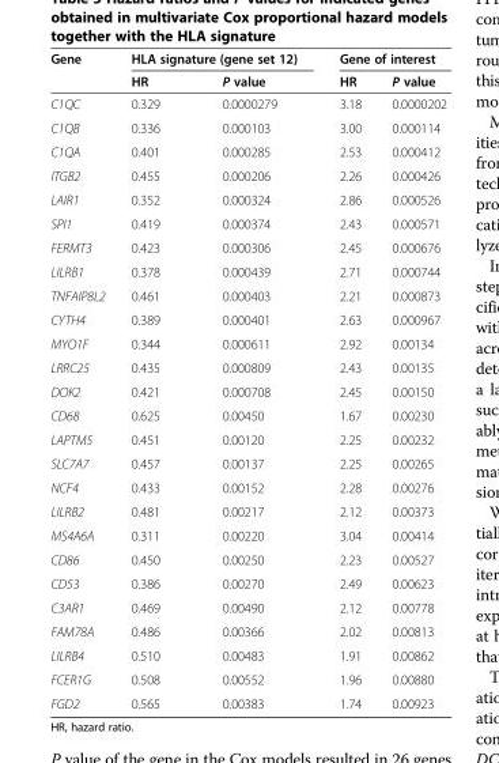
<table><thead><tr><td rowspan="2">Gene</td><td colspan="2">HLA signature (gene set 12)</td><td colspan="2">Gene of interest</td></tr><tr><td>HR</td><td>P value</td><td>HR</td><td>P value</td></tr></thead><tbody><tr><td>C1QC</td><td>0.329</td><td>0.0000279</td><td>3.18</td><td>0.0000202</td></tr><tr><td>C1QB</td><td>0.336</td><td>0.000103</td><td>3.00</td><td>0.000114</td></tr><tr><td>C1QA</td><td>0.401</td><td>0.000285</td><td>2.53</td><td>0.000412</td></tr><tr><td>ITGB2</td><td>0.455</td><td>0.000206</td><td>2.26</td><td>0.000426</td></tr><tr><td>LAIR1</td><td>0.352</td><td>0.000324</td><td>2.86</td><td>0.000526</td></tr><tr><td>SPI1</td><td>0.419</td><td>0.000374</td><td>2.43</td><td>0.000571</td></tr><tr><td>FERMT3</td><td>0.423</td><td>0.000306</td><td>2.45</td><td>0.000676</td></tr><tr><td>LILRB1</td><td>0.378</td><td>0.000439</td><td>2.71</td><td>0.000744</td></tr><tr><td>TNFAIP8L2</td><td>0.461</td><td>0.000403</td><td>2.21</td><td>0.000873</td></tr><tr><td>CYTH4</td><td>0.389</td><td>0.000401</td><td>2.63</td><td>0.000967</td></tr><tr><td>MYO1F</td><td>0.344</td><td>0.000611</td><td>2.92</td><td>0.00134</td></tr><tr><td>LRRC25</td><td>0.435</td><td>0.000809</td><td>2.43</td><td>0.00135</td></tr><tr><td>DOK2</td><td>0.421</td><td>0.000708</td><td>2.45</td><td>0.00150</td></tr><tr><td>CD68</td><td>0.625</td><td>0.00450</td><td>1.67</td><td>0.00230</td></tr><tr><td>LAPTM5</td><td>0.451</td><td>0.00120</td><td>2.25</td><td>0.00232</td></tr><tr><td>SLC7A7</td><td>0.457</td><td>0.00137</td><td>2.25</td><td>0.00265</td></tr><tr><td>NCF4</td><td>0.433</td><td>0.00152</td><td>2.28</td><td>0.00276</td></tr><tr><td>LILRB2</td><td>0.481</td><td>0.00217</td><td>2.12</td><td>0.00373</td></tr><tr><td>MS4A6A</td><td>0.311</td><td>0.00220</td><td>3.04</td><td>0.00414</td></tr><tr><td>CD86</td><td>0.450</td><td>0.00250</td><td>2.23</td><td>0.00527</td></tr><tr><td>CD53</td><td>0.386</td><td>0.00270</td><td>2.49</td><td>0.00623</td></tr><tr><td>C3AR1</td><td>0.469</td><td>0.00490</td><td>2.12</td><td>0.00778</td></tr><tr><td>FAM78A</td><td>0.486</td><td>0.00366</td><td>2.02</td><td>0.00813</td></tr><tr><td>LILRB4</td><td>0.510</td><td>0.00483</td><td>1.91</td><td>0.00862</td></tr><tr><td>FCER1G</td><td>0.508</td><td>0.00552</td><td>1.96</td><td>0.00880</td></tr><tr><td>FGD2</td><td>0.565</td><td>0.00383</td><td>1.74</td><td>0.00923</td></tr></tbody></table>